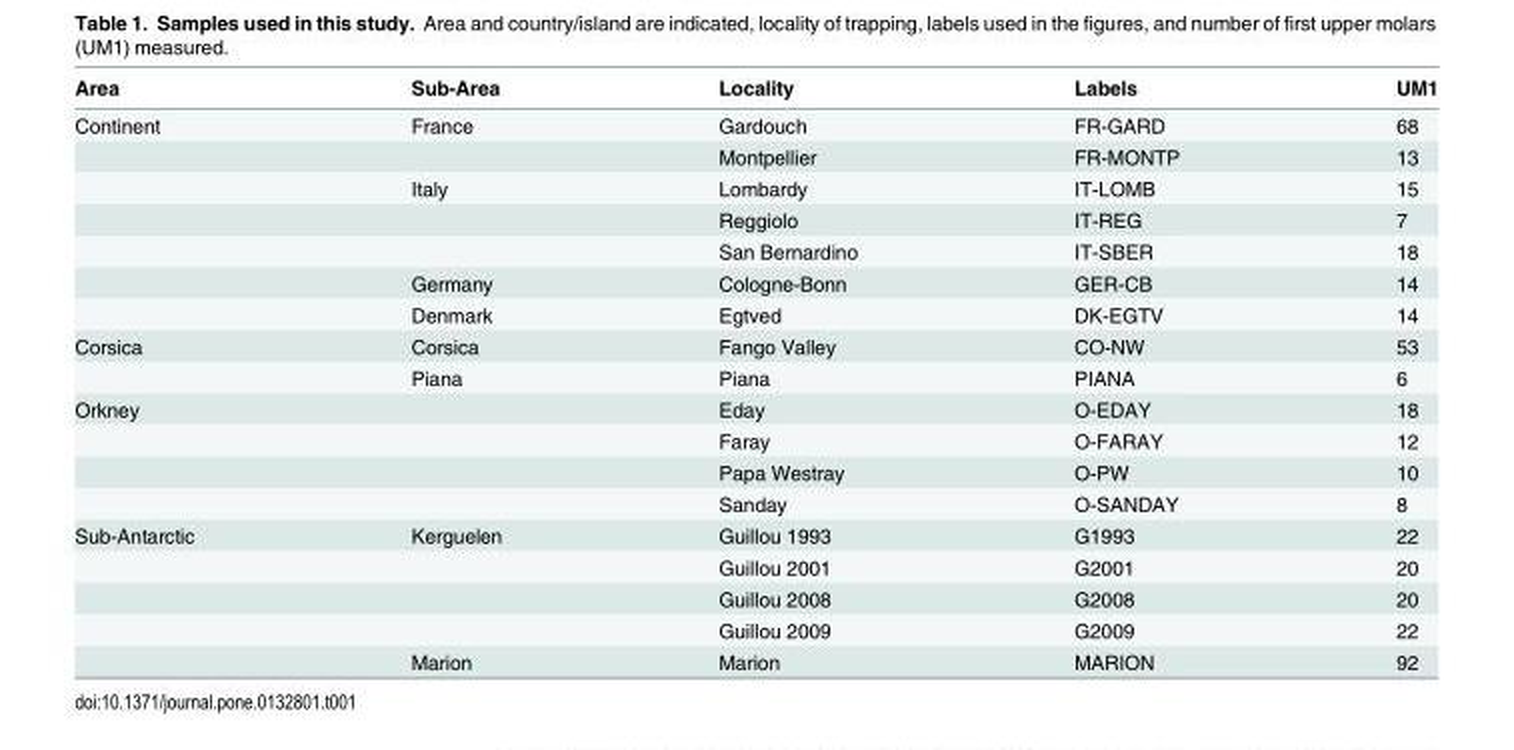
<table><thead><tr><td>Area</td><td>Sub-Area</td><td>Locality</td><td>Labels</td><td>UM1</td></tr></thead><tbody><tr><td rowspan="7">Continent</td><td>France</td><td>Gardouch</td><td>FR-GARD</td><td>68</td></tr><tr><td></td><td>Montpellier</td><td>FR-MONTP</td><td>13</td></tr><tr><td>Italy</td><td>Lombardy</td><td>IT-LOMB</td><td>15</td></tr><tr><td></td><td>Reggiolo</td><td>IT-REG</td><td>7</td></tr><tr><td></td><td>San Bernardino</td><td>IT-SBER</td><td>18</td></tr><tr><td>Germany</td><td>Cologne-Bonn</td><td>GER-CB</td><td>14</td></tr><tr><td>Denmark</td><td>Egtved</td><td>DK-EGTV</td><td>14</td></tr><tr><td rowspan="2">Corsica</td><td>Corsica</td><td>Fango Valley</td><td>CO-NW</td><td>53</td></tr><tr><td>Piana</td><td>Piana</td><td>PIANA</td><td>6</td></tr><tr><td rowspan="4">Orkney</td><td></td><td>Eday</td><td>O-EDAY</td><td>18</td></tr><tr><td></td><td>Faray</td><td>O-FARAY</td><td>12</td></tr><tr><td></td><td>Papa Westray</td><td>O-PW</td><td>10</td></tr><tr><td></td><td>Sanday</td><td>O-SANDAY</td><td>8</td></tr><tr><td rowspan="5">Sub-Antarctic</td><td>Kerguelen</td><td>Guillou 1993</td><td>G1993</td><td>22</td></tr><tr><td></td><td>Guillou 2001</td><td>G2001</td><td>20</td></tr><tr><td></td><td>Guillou 2008</td><td>G2008</td><td>20</td></tr><tr><td></td><td>Guillou 2009</td><td>G2009</td><td>22</td></tr><tr><td>Marion</td><td>Marion</td><td>MARION</td><td>92</td></tr></tbody></table>